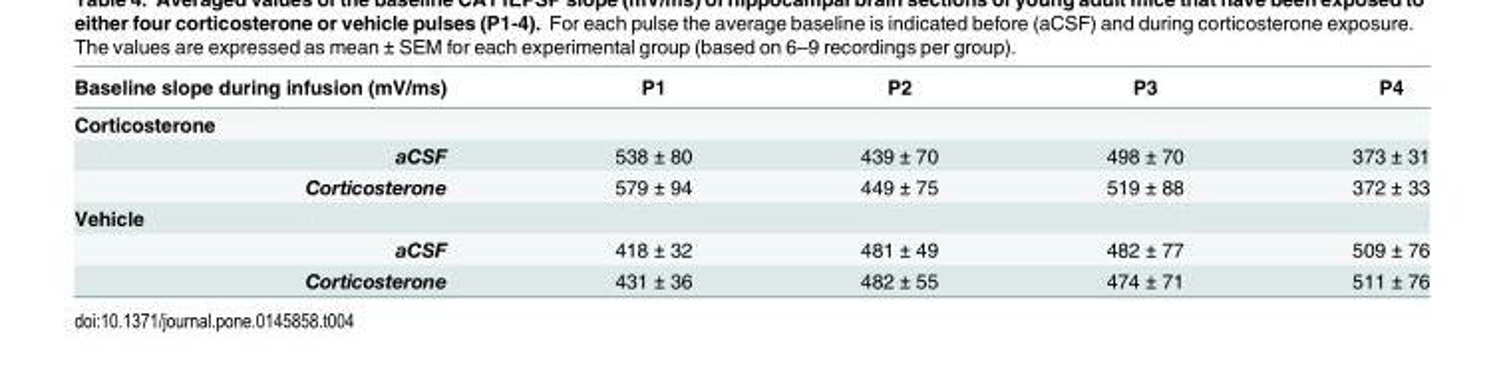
<table><thead><tr><td>Baseline slope during infusion (mV/ms)</td><td>P1</td><td>P2</td><td>P3</td><td>P4</td></tr></thead><tbody><tr><td colspan="5">Corticosterone</td></tr><tr><td>aCSF</td><td>538 ± 80</td><td>439 ± 70</td><td>498 ± 70</td><td>373 ± 31</td></tr><tr><td>Corticosterone</td><td>579 ± 94</td><td>449 ± 75</td><td>519 ± 88</td><td>372 ± 33</td></tr><tr><td colspan="5">Vehicle</td></tr><tr><td>aCSF</td><td>418 ± 32</td><td>481 ± 49</td><td>482 ± 77</td><td>509 ± 76</td></tr><tr><td>Corticosterone</td><td>431 ± 36</td><td>482 ± 55</td><td>474 ± 71</td><td>511 ± 76</td></tr></tbody></table>